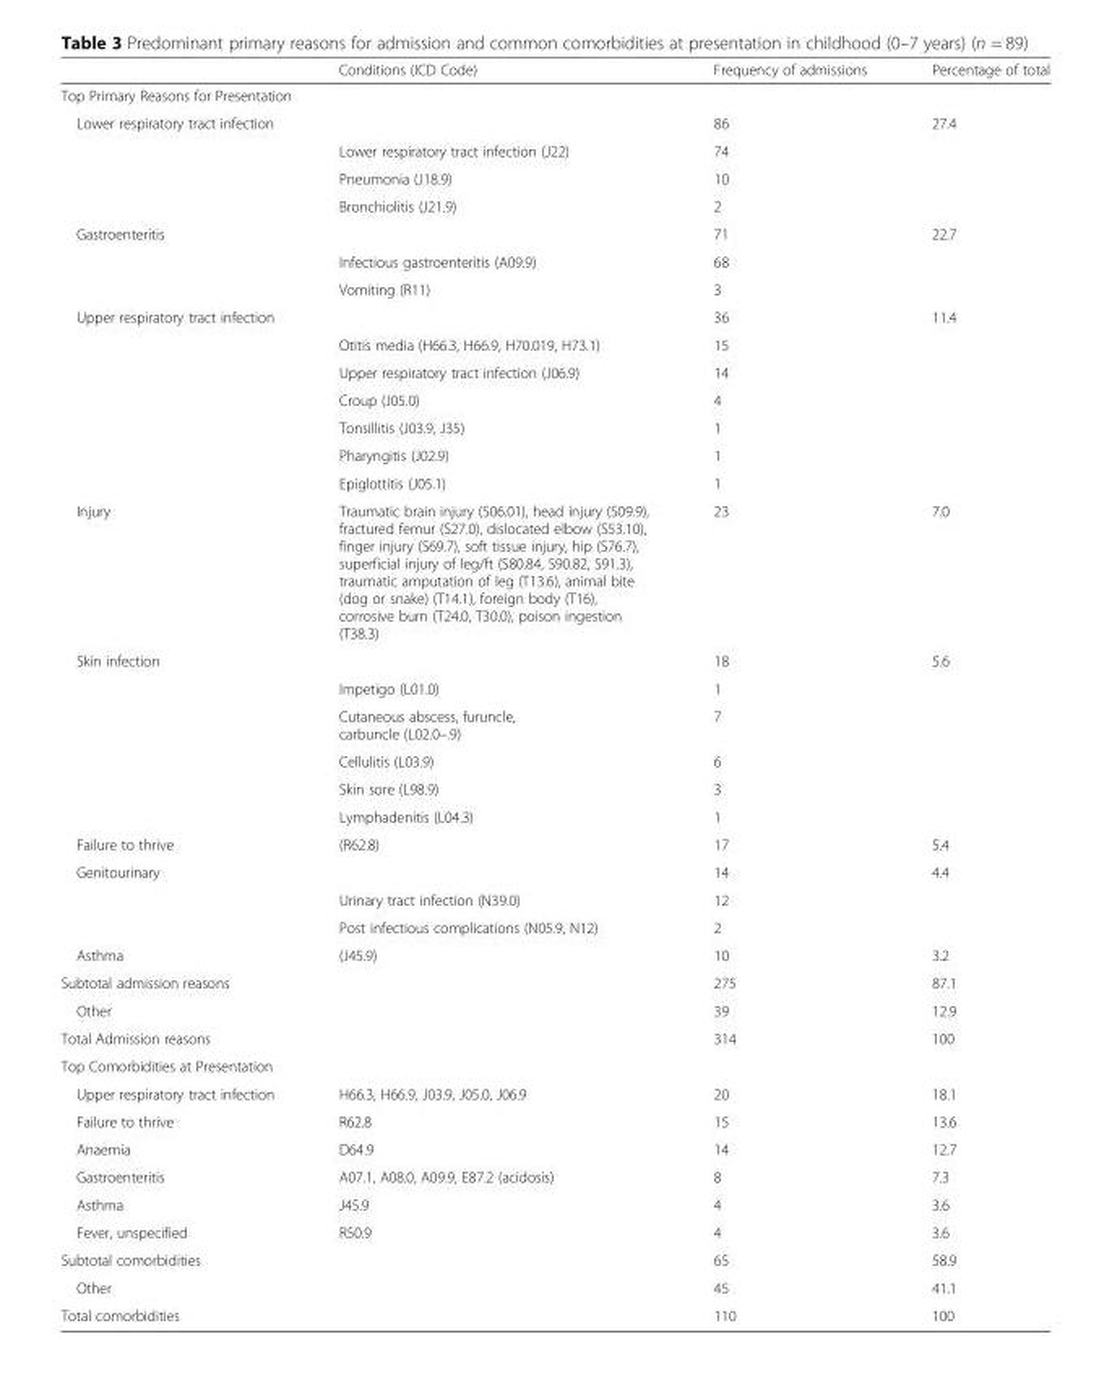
<table><thead><tr><td></td><td>Conditions (ICD Code)</td><td>Frequency of admissions</td><td>Percentage of total</td></tr></thead><tbody><tr><td colspan="4">Top Primary Reasons for Presentation</td></tr><tr><td rowspan="4">Lower respiratory tract infection</td><td></td><td>86</td><td>27.4</td></tr><tr><td>Lower respiratory tract infection (J22)</td><td>74</td><td></td></tr><tr><td>Pneumonia (J18.9)</td><td>10</td><td></td></tr><tr><td>Bronchiolitis (J21.9)</td><td>2</td><td></td></tr><tr><td rowspan="3">Gastroenteritis</td><td></td><td>71</td><td>22.7</td></tr><tr><td>Infectious gastroenteritis (A09.9)</td><td>68</td><td></td></tr><tr><td>Vomiting (R11)</td><td>3</td><td></td></tr><tr><td rowspan="7">Upper respiratory tract infection</td><td></td><td>36</td><td>11.4</td></tr><tr><td>Otitis media (H66.3, H66.9, H70.019, H73.1)</td><td>15</td><td></td></tr><tr><td>Upper respiratory tract infection (J06.9)</td><td>14</td><td></td></tr><tr><td>Croup (J05.0)</td><td>4</td><td></td></tr><tr><td>Tonsillitis (J03.9, J35)</td><td>1</td><td></td></tr><tr><td>Pharyngitis (J02.9)</td><td>1</td><td></td></tr><tr><td>Epiglottitis (J05.1)</td><td>1</td><td></td></tr><tr><td>Injury</td><td>Traumatic brain injury (S06.01), head injury (S09.9), fractured femur (S27.0), dislocated elbow (S53.10), finger injury (S69.7), soft tissue injury, hip (S76.7), superficial injury of leg/ft (S80.84, S90.82, S91.3), traumatic amputation of leg (T13.6), animal bite (dog or snake) (T14.1), foreign body (T16), corrosive burn (T24.0, T30.0), poison ingestion (T38.3)</td><td>23</td><td>7.0</td></tr><tr><td rowspan="6">Skin infection</td><td></td><td>18</td><td>5.6</td></tr><tr><td>Impetigo (L01.0)</td><td>1</td><td></td></tr><tr><td>Cutaneous abscess, furuncle, carbuncle (L02.0–.9)</td><td>7</td><td></td></tr><tr><td>Cellulitis (L03.9)</td><td>6</td><td></td></tr><tr><td>Skin sore (L98.9)</td><td>3</td><td></td></tr><tr><td>Lymphadenitis (L04.3)</td><td>1</td><td></td></tr><tr><td>Failure to thrive</td><td>(R62.8)</td><td>17</td><td>5.4</td></tr><tr><td rowspan="3">Genitourinary</td><td></td><td>14</td><td>4.4</td></tr><tr><td>Urinary tract infection (N39.0)</td><td>12</td><td></td></tr><tr><td>Post infectious complications (N05.9, N12)</td><td>2</td><td></td></tr><tr><td>Asthma</td><td>(J45.9)</td><td>10</td><td>3.2</td></tr><tr><td>Subtotal admission reasons</td><td></td><td>275</td><td>87.1</td></tr><tr><td>Other</td><td></td><td>39</td><td>12.9</td></tr><tr><td>Total Admission reasons</td><td></td><td>314</td><td>100</td></tr><tr><td colspan="4">Top Comorbidities at Presentation</td></tr><tr><td>Upper respiratory tract infection</td><td>H66.3, H66.9, J03.9, J05.0, J06.9</td><td>20</td><td>18.1</td></tr><tr><td>Failure to thrive</td><td>R62.8</td><td>15</td><td>13.6</td></tr><tr><td>Anaemia</td><td>D64.9</td><td>14</td><td>12.7</td></tr><tr><td>Gastroenteritis</td><td>A07.1, A08.0, A09.9, E87.2 (acidosis)</td><td>8</td><td>7.3</td></tr><tr><td>Asthma</td><td>J45.9</td><td>4</td><td>3.6</td></tr><tr><td>Fever, unspecified</td><td>R50.9</td><td>4</td><td>3.6</td></tr><tr><td>Subtotal comorbidities</td><td></td><td>65</td><td>58.9</td></tr><tr><td>Other</td><td></td><td>45</td><td>41.1</td></tr><tr><td>Total comorbidities</td><td></td><td>110</td><td>100</td></tr></tbody></table>